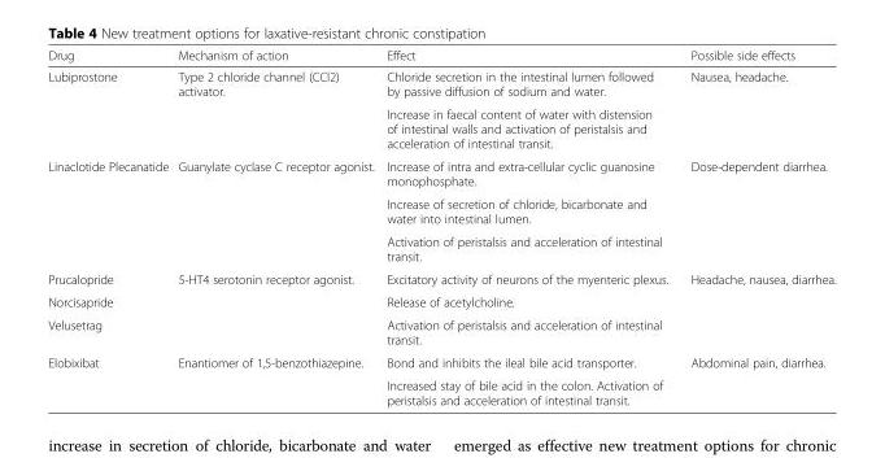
<table><thead><tr><td>Drug</td><td>Mechanism of action</td><td>Effect</td><td>Possible side effects</td></tr></thead><tbody><tr><td rowspan="2">Lubiprostone</td><td rowspan="2">Type 2 chloride channel (CCl2) activator.</td><td>Chloride secretion in the intestinal lumen followed by passive diffusion of sodium and water.</td><td rowspan="2">Nausea, headache.</td></tr><tr><td>Increase in faecal content of water with distension of intestinal walls and activation of peristalsis and acceleration of intestinal transit.</td></tr><tr><td rowspan="3">Linaclotide Plecanatide</td><td rowspan="3">Guanylate cyclase C receptor agonist.</td><td>Increase of intra and extra-cellular cyclic guanosine monophosphate.</td><td rowspan="3">Dose-dependent diarrhea.</td></tr><tr><td>Increase of secretion of chloride, bicarbonate and water into intestinal lumen.</td></tr><tr><td>Activation of peristalsis and acceleration of intestinal transit.</td></tr><tr><td>Prucalopride</td><td rowspan="3">5-HT4 serotonin receptor agonist.</td><td>Excitatory activity of neurons of the myenteric plexus.</td><td rowspan="3">Headache, nausea, diarrhea.</td></tr><tr><td>Norcisapride</td><td>Release of acetylcholine.</td></tr><tr><td>Velusetrag</td><td>Activation of peristalsis and acceleration of intestinal transit.</td></tr><tr><td rowspan="2">Elobixibat</td><td rowspan="2">Enantiomer of 1,5-benzothiazepine.</td><td>Bond and inhibits the ileal bile acid transporter.</td><td rowspan="2">Abdominal pain, diarrhea.</td></tr><tr><td>Increased stay of bile acid in the colon. Activation of peristalsis and acceleration of intestinal transit.</td></tr></tbody></table>